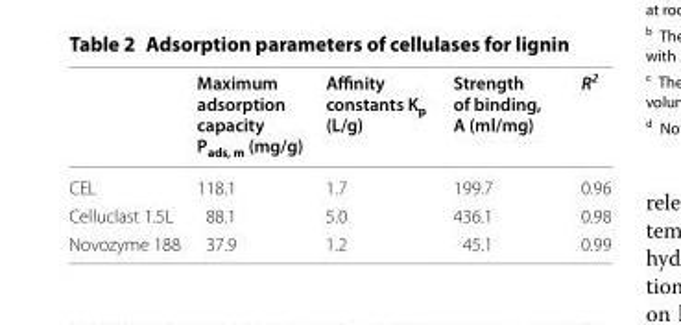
<table><thead><tr><td></td><td>Maximum adsorption capacity P<sub>ads, m</sub> (mg/g)</td><td>Affinity constants K<sub>p</sub> (L/g)</td><td>Strength of binding, A (ml/mg)</td><td>R<sup>2</sup></td></tr></thead><tbody><tr><td>CEL</td><td>118.1</td><td>1.7</td><td>199.7</td><td>0.96</td></tr><tr><td>Celluclast 1.5L</td><td>88.1</td><td>5.0</td><td>436.1</td><td>0.98</td></tr><tr><td>Novozyme 188</td><td>37.9</td><td>1.2</td><td>45.1</td><td>0.99</td></tr></tbody></table>